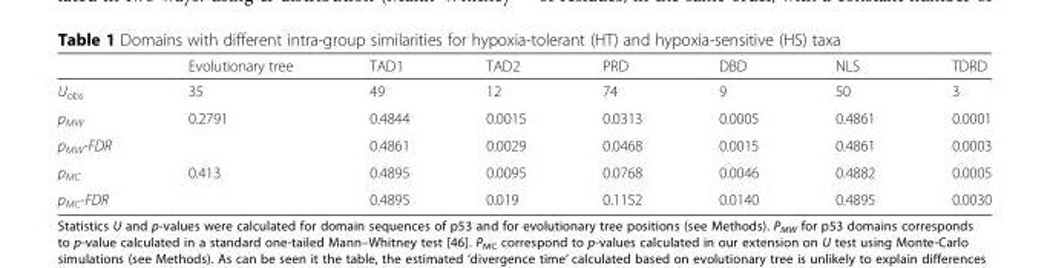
<table><thead><tr><td></td><td>Evolutionary tree</td><td>TAD1</td><td>TAD2</td><td>PRD</td><td>DBD</td><td>NLS</td><td>TDRD</td></tr></thead><tbody><tr><td>U<sub>obs</sub></td><td>35</td><td>49</td><td>12</td><td>74</td><td>9</td><td>50</td><td>3</td></tr><tr><td>p<sub>MW</sub></td><td>0.2791</td><td>0.4844</td><td>0.0015</td><td>0.0313</td><td>0.0005</td><td>0.4861</td><td>0.0001</td></tr><tr><td>p<sub>MW</sub>-FDR</td><td></td><td>0.4861</td><td>0.0029</td><td>0.0468</td><td>0.0015</td><td>0.4861</td><td>0.0003</td></tr><tr><td>p<sub>MC</sub></td><td>0.413</td><td>0.4895</td><td>0.0095</td><td>0.0768</td><td>0.0046</td><td>0.4882</td><td>0.0005</td></tr><tr><td>p<sub>MC</sub>-FDR</td><td></td><td>0.4895</td><td>0.019</td><td>0.1152</td><td>0.0140</td><td>0.4895</td><td>0.0030</td></tr></tbody></table>